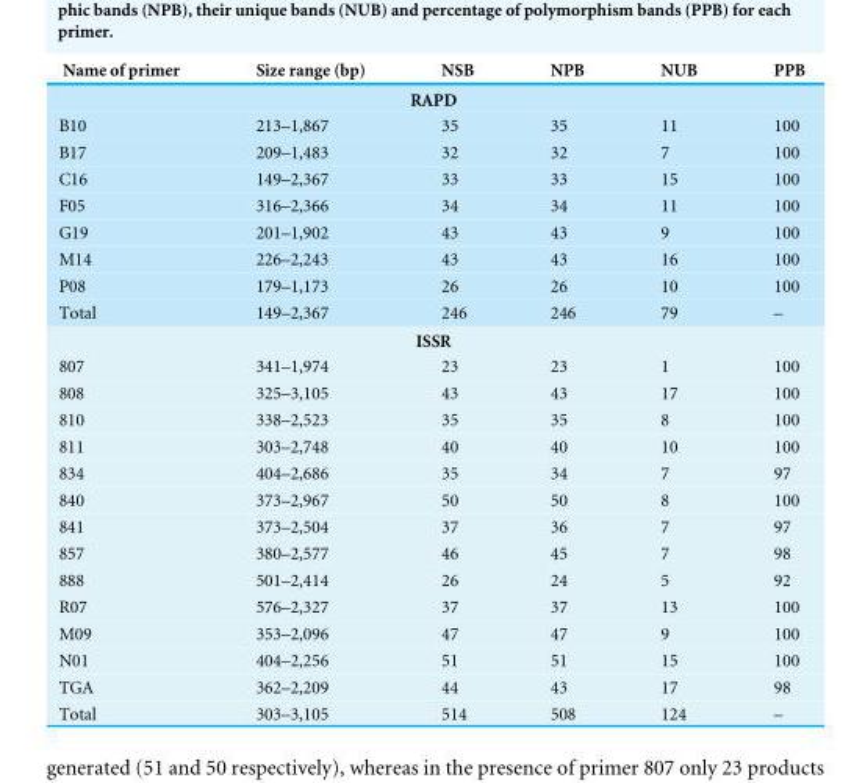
<table><thead><tr><td>Name of primer</td><td>Size range (bp)</td><td>NSB</td><td>NPB</td><td>NUB</td><td>PPB</td></tr></thead><tbody><tr><td colspan="6">RAPD</td></tr><tr><td>B10</td><td>213–1,867</td><td>35</td><td>35</td><td>11</td><td>100</td></tr><tr><td>B17</td><td>209–1,483</td><td>32</td><td>32</td><td>7</td><td>100</td></tr><tr><td>C16</td><td>149–2,367</td><td>33</td><td>33</td><td>15</td><td>100</td></tr><tr><td>F05</td><td>316–2,366</td><td>34</td><td>34</td><td>11</td><td>100</td></tr><tr><td>G19</td><td>201–1,902</td><td>43</td><td>43</td><td>9</td><td>100</td></tr><tr><td>M14</td><td>226–2,243</td><td>43</td><td>43</td><td>16</td><td>100</td></tr><tr><td>P08</td><td>179–1,173</td><td>26</td><td>26</td><td>10</td><td>100</td></tr><tr><td>Total</td><td>149–2,367</td><td>246</td><td>246</td><td>79</td><td>–</td></tr><tr><td colspan="6">ISSR</td></tr><tr><td>807</td><td>341–1,974</td><td>23</td><td>23</td><td>1</td><td>100</td></tr><tr><td>808</td><td>325–3,105</td><td>43</td><td>43</td><td>17</td><td>100</td></tr><tr><td>810</td><td>338–2,523</td><td>35</td><td>35</td><td>8</td><td>100</td></tr><tr><td>811</td><td>303–2,748</td><td>40</td><td>40</td><td>10</td><td>100</td></tr><tr><td>834</td><td>404–2,686</td><td>35</td><td>34</td><td>7</td><td>97</td></tr><tr><td>840</td><td>373–2,967</td><td>50</td><td>50</td><td>8</td><td>100</td></tr><tr><td>841</td><td>373–2,504</td><td>37</td><td>36</td><td>7</td><td>97</td></tr><tr><td>857</td><td>380–2,577</td><td>46</td><td>45</td><td>7</td><td>98</td></tr><tr><td>888</td><td>501–2,414</td><td>26</td><td>24</td><td>5</td><td>92</td></tr><tr><td>R07</td><td>576–2,327</td><td>37</td><td>37</td><td>13</td><td>100</td></tr><tr><td>M09</td><td>353–2,096</td><td>47</td><td>47</td><td>9</td><td>100</td></tr><tr><td>N01</td><td>404–2,256</td><td>51</td><td>51</td><td>15</td><td>100</td></tr><tr><td>TGA</td><td>362–2,209</td><td>44</td><td>43</td><td>17</td><td>98</td></tr><tr><td>Total</td><td>303–3,105</td><td>514</td><td>508</td><td>124</td><td>–</td></tr></tbody></table>